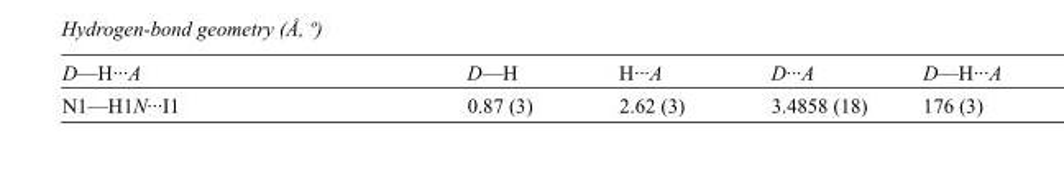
<table><tbody><tr><td>D—H···A</td><td>D—H</td><td>H···A</td><td>D···A</td><td>D—H···A</td></tr><tr><td>N1—H1N···I1</td><td>0.87 (3)</td><td>2.62 (3)</td><td>3.4858 (18)</td><td>176 (3)</td></tr></tbody></table>